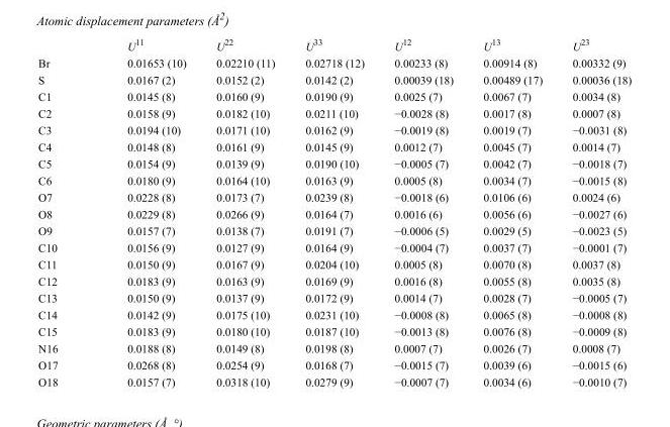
<table><thead><tr><td></td><td>U<sup>11</sup></td><td>U<sup>22</sup></td><td>U<sup>33</sup></td><td>U<sup>12</sup></td><td>U<sup>13</sup></td><td>U<sup>23</sup></td></tr></thead><tbody><tr><td>Br</td><td>0.01653 (10)</td><td>0.02210 (11)</td><td>0.02718 (12)</td><td>0.00233 (8)</td><td>0.00914 (8)</td><td>0.00332 (9)</td></tr><tr><td>S</td><td>0.0167 (2)</td><td>0.0152 (2)</td><td>0.0142 (2)</td><td>0.00039 (18)</td><td>0.00489 (17)</td><td>0.00036 (18)</td></tr><tr><td>C1</td><td>0.0145 (8)</td><td>0.0160 (9)</td><td>0.0190 (9)</td><td>0.0025 (7)</td><td>0.0067 (7)</td><td>0.0034 (8)</td></tr><tr><td>C2</td><td>0.0158 (9)</td><td>0.0182 (10)</td><td>0.0211 (10)</td><td>−0.0028 (8)</td><td>0.0017 (8)</td><td>0.0007 (8)</td></tr><tr><td>C3</td><td>0.0194 (10)</td><td>0.0171 (10)</td><td>0.0162 (9)</td><td>−0.0019 (8)</td><td>0.0019 (7)</td><td>−0.0031 (8)</td></tr><tr><td>C4</td><td>0.0148 (8)</td><td>0.0161 (9)</td><td>0.0145 (9)</td><td>0.0012 (7)</td><td>0.0045 (7)</td><td>0.0014 (7)</td></tr><tr><td>C5</td><td>0.0154 (9)</td><td>0.0139 (9)</td><td>0.0190 (10)</td><td>−0.0005 (7)</td><td>0.0042 (7)</td><td>−0.0018 (7)</td></tr><tr><td>C6</td><td>0.0180 (9)</td><td>0.0164 (10)</td><td>0.0163 (9)</td><td>0.0005 (8)</td><td>0.0034 (7)</td><td>−0.0015 (8)</td></tr><tr><td>O7</td><td>0.0228 (8)</td><td>0.0173 (7)</td><td>0.0239 (8)</td><td>−0.0018 (6)</td><td>0.0106 (6)</td><td>0.0024 (6)</td></tr><tr><td>O8</td><td>0.0229 (8)</td><td>0.0266 (9)</td><td>0.0164 (7)</td><td>0.0016 (6)</td><td>0.0056 (6)</td><td>−0.0027 (6)</td></tr><tr><td>O9</td><td>0.0157 (7)</td><td>0.0138 (7)</td><td>0.0191 (7)</td><td>−0.0006 (5)</td><td>0.0029 (5)</td><td>−0.0023 (5)</td></tr><tr><td>C10</td><td>0.0156 (9)</td><td>0.0127 (9)</td><td>0.0164 (9)</td><td>−0.0004 (7)</td><td>0.0037 (7)</td><td>−0.0001 (7)</td></tr><tr><td>C11</td><td>0.0150 (9)</td><td>0.0167 (9)</td><td>0.0204 (10)</td><td>0.0005 (8)</td><td>0.0070 (8)</td><td>0.0037 (8)</td></tr><tr><td>C12</td><td>0.0183 (9)</td><td>0.0163 (9)</td><td>0.0169 (9)</td><td>0.0016 (8)</td><td>0.0055 (8)</td><td>0.0035 (8)</td></tr><tr><td>C13</td><td>0.0150 (9)</td><td>0.0137 (9)</td><td>0.0172 (9)</td><td>0.0014 (7)</td><td>0.0028 (7)</td><td>−0.0005 (7)</td></tr><tr><td>C14</td><td>0.0142 (9)</td><td>0.0175 (10)</td><td>0.0231 (10)</td><td>−0.0008 (8)</td><td>0.0065 (8)</td><td>−0.0008 (8)</td></tr><tr><td>C15</td><td>0.0183 (9)</td><td>0.0180 (10)</td><td>0.0187 (10)</td><td>−0.0013 (8)</td><td>0.0076 (8)</td><td>−0.0009 (8)</td></tr><tr><td>N16</td><td>0.0188 (8)</td><td>0.0149 (8)</td><td>0.0198 (8)</td><td>0.0007 (7)</td><td>0.0026 (7)</td><td>0.0008 (7)</td></tr><tr><td>O17</td><td>0.0268 (8)</td><td>0.0254 (9)</td><td>0.0168 (7)</td><td>−0.0015 (7)</td><td>0.0039 (6)</td><td>−0.0015 (6)</td></tr><tr><td>O18</td><td>0.0157 (7)</td><td>0.0318 (10)</td><td>0.0279 (9)</td><td>−0.0007 (7)</td><td>0.0034 (6)</td><td>−0.0010 (7)</td></tr></tbody></table>